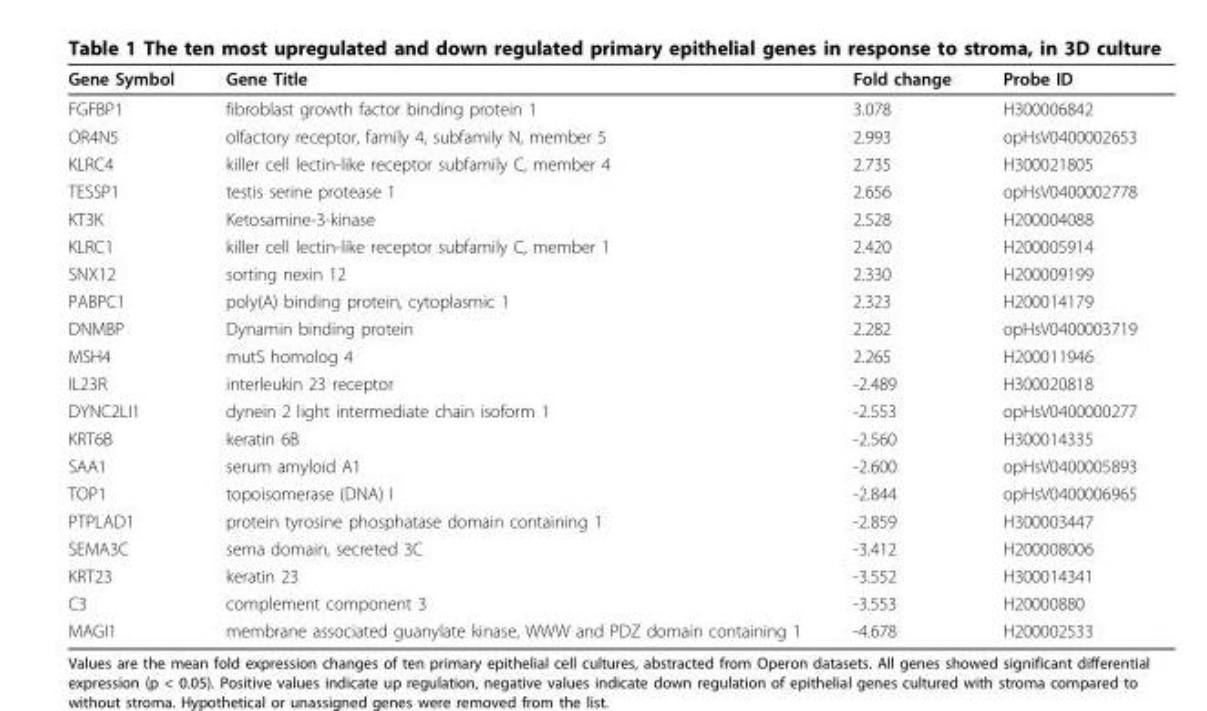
<table><thead><tr><td>Gene Symbol</td><td>Gene Title</td><td>Fold change</td><td>Probe ID</td></tr></thead><tbody><tr><td>FGFBP1</td><td>fibroblast growth factor binding protein 1</td><td>3.078</td><td>H300006842</td></tr><tr><td>OR4N5</td><td>olfactory receptor, family 4, subfamily N, member 5</td><td>2.993</td><td>opHsV0400002653</td></tr><tr><td>KLRC4</td><td>killer cell lectin-like receptor subfamily C, member 4</td><td>2.735</td><td>H300021805</td></tr><tr><td>TESSP1</td><td>testis serine protease 1</td><td>2.656</td><td>opHsV0400002778</td></tr><tr><td>KT3K</td><td>Ketosamine-3-kinase</td><td>2.528</td><td>H200004088</td></tr><tr><td>KLRC1</td><td>killer cell lectin-like receptor subfamily C, member 1</td><td>2.420</td><td>H200005914</td></tr><tr><td>SNX12</td><td>sorting nexin 12</td><td>2.330</td><td>H200009199</td></tr><tr><td>PABPC1</td><td>poly(A) binding protein, cytoplasmic 1</td><td>2.323</td><td>H200014179</td></tr><tr><td>DNMBP</td><td>Dynamin binding protein</td><td>2.282</td><td>opHsV0400003719</td></tr><tr><td>MSH4</td><td>mutS homolog 4</td><td>2.265</td><td>H200011946</td></tr><tr><td>IL23R</td><td>interleukin 23 receptor</td><td>-2.489</td><td>H300020818</td></tr><tr><td>DYNC2LI1</td><td>dynein 2 light intermediate chain isoform 1</td><td>-2.553</td><td>opHsV0400000277</td></tr><tr><td>KRT6B</td><td>keratin 6B</td><td>-2.560</td><td>H300014335</td></tr><tr><td>SAA1</td><td>serum amyloid A1</td><td>-2.600</td><td>opHsV0400005893</td></tr><tr><td>TOP1</td><td>topoisomerase (DNA) I</td><td>-2.844</td><td>opHsV0400006965</td></tr><tr><td>PTPLAD1</td><td>protein tyrosine phosphatase domain containing 1</td><td>-2.859</td><td>H300003447</td></tr><tr><td>SEMA3C</td><td>sema domain, secreted 3C</td><td>-3.412</td><td>H200008006</td></tr><tr><td>KRT23</td><td>keratin 23</td><td>-3.552</td><td>H300014341</td></tr><tr><td>C3</td><td>complement component 3</td><td>-3.553</td><td>H20000880</td></tr><tr><td>MAGI1</td><td>membrane associated guanylate kinase, WWW and PDZ domain containing 1</td><td>-4.678</td><td>H200002533</td></tr></tbody></table>